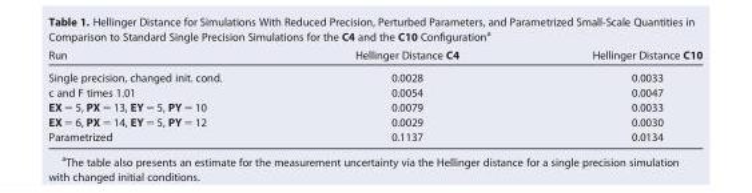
<table><thead><tr><td>Run</td><td>Hellinger Distance C4</td><td>Hellinger Distance C10</td></tr></thead><tbody><tr><td>Single precision, changed init. cond.</td><td>0.0028</td><td>0.0033</td></tr><tr><td>c and F times 1.01</td><td>0.0054</td><td>0.0047</td></tr><tr><td>EX = 5, PX = 13, EY = 5, PY = 10</td><td>0.0079</td><td>0.0033</td></tr><tr><td>EX = 6, PX = 14, EY = 5, PY = 12</td><td>0.0029</td><td>0.0030</td></tr><tr><td>Parametrized</td><td>0.1137</td><td>0.0134</td></tr></tbody></table>